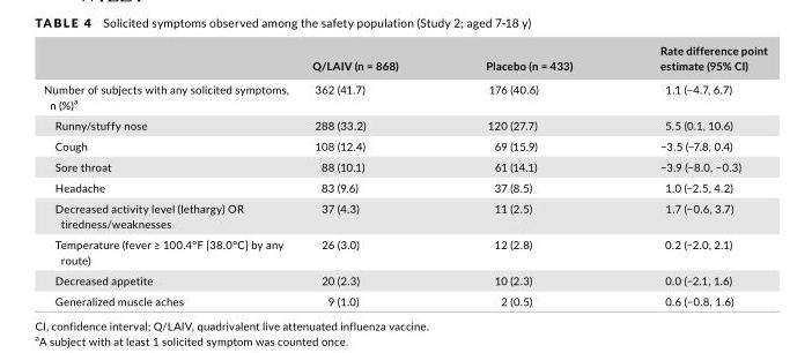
<table><thead><tr><td></td><td>Q/LAIV (n = 868)</td><td>Placebo (n = 433)</td><td>Rate difference point estimate (95% CI)</td></tr></thead><tbody><tr><td>Number of subjects with any solicited symptoms, n (%)<sup>a</sup></td><td>362 (41.7)</td><td>176 (40.6)</td><td>1.1 (−4.7, 6.7)</td></tr><tr><td>Runny/stuffy nose</td><td>288 (33.2)</td><td>120 (27.7)</td><td>5.5 (0.1, 10.6)</td></tr><tr><td>Cough</td><td>108 (12.4)</td><td>69 (15.9)</td><td>−3.5 (−7.8, 0.4)</td></tr><tr><td>Sore throat</td><td>88 (10.1)</td><td>61 (14.1)</td><td>−3.9 (−8.0, −0.3)</td></tr><tr><td>Headache</td><td>83 (9.6)</td><td>37 (8.5)</td><td>1.0 (−2.5, 4.2)</td></tr><tr><td>Decreased activity level (lethargy) OR tiredness/weaknesses</td><td>37 (4.3)</td><td>11 (2.5)</td><td>1.7 (−0.6, 3.7)</td></tr><tr><td>Temperature (fever ≥ 100.4°F [38.0°C] by any route)</td><td>26 (3.0)</td><td>12 (2.8)</td><td>0.2 (−2.0, 2.1)</td></tr><tr><td>Decreased appetite</td><td>20 (2.3)</td><td>10 (2.3)</td><td>0.0 (−2.1, 1.6)</td></tr><tr><td>Generalized muscle aches</td><td>9 (1.0)</td><td>2 (0.5)</td><td>0.6 (−0.8, 1.6)</td></tr></tbody></table>